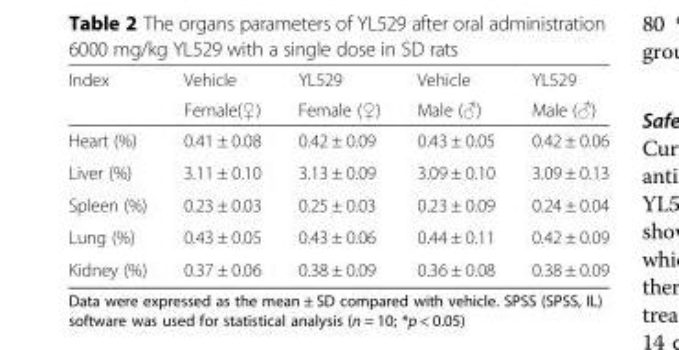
<table><thead><tr><td rowspan="2">Index</td><td rowspan="2">Vehicle Female(♀)</td><td rowspan="2">YL529 Female (♀)</td><td rowspan="2">Vehicle Male (♂)</td><td rowspan="2">YL529 Male (♂)</td></tr><tr></tr></thead><tbody><tr><td>Heart (%)</td><td>0.41 ± 0.08</td><td>0.42 ± 0.09</td><td>0.43 ± 0.05</td><td>0.42 ± 0.06</td></tr><tr><td>Liver (%)</td><td>3.11 ± 0.10</td><td>3.13 ± 0.09</td><td>3.09 ± 0.10</td><td>3.09 ± 0.13</td></tr><tr><td>Spleen (%)</td><td>0.23 ± 0.03</td><td>0.25 ± 0.03</td><td>0.23 ± 0.09</td><td>0.24 ± 0.04</td></tr><tr><td>Lung (%)</td><td>0.43 ± 0.05</td><td>0.43 ± 0.06</td><td>0.44 ± 0.11</td><td>0.42 ± 0.09</td></tr><tr><td>Kidney (%)</td><td>0.37 ± 0.06</td><td>0.38 ± 0.09</td><td>0.36 ± 0.08</td><td>0.38 ± 0.09</td></tr></tbody></table>